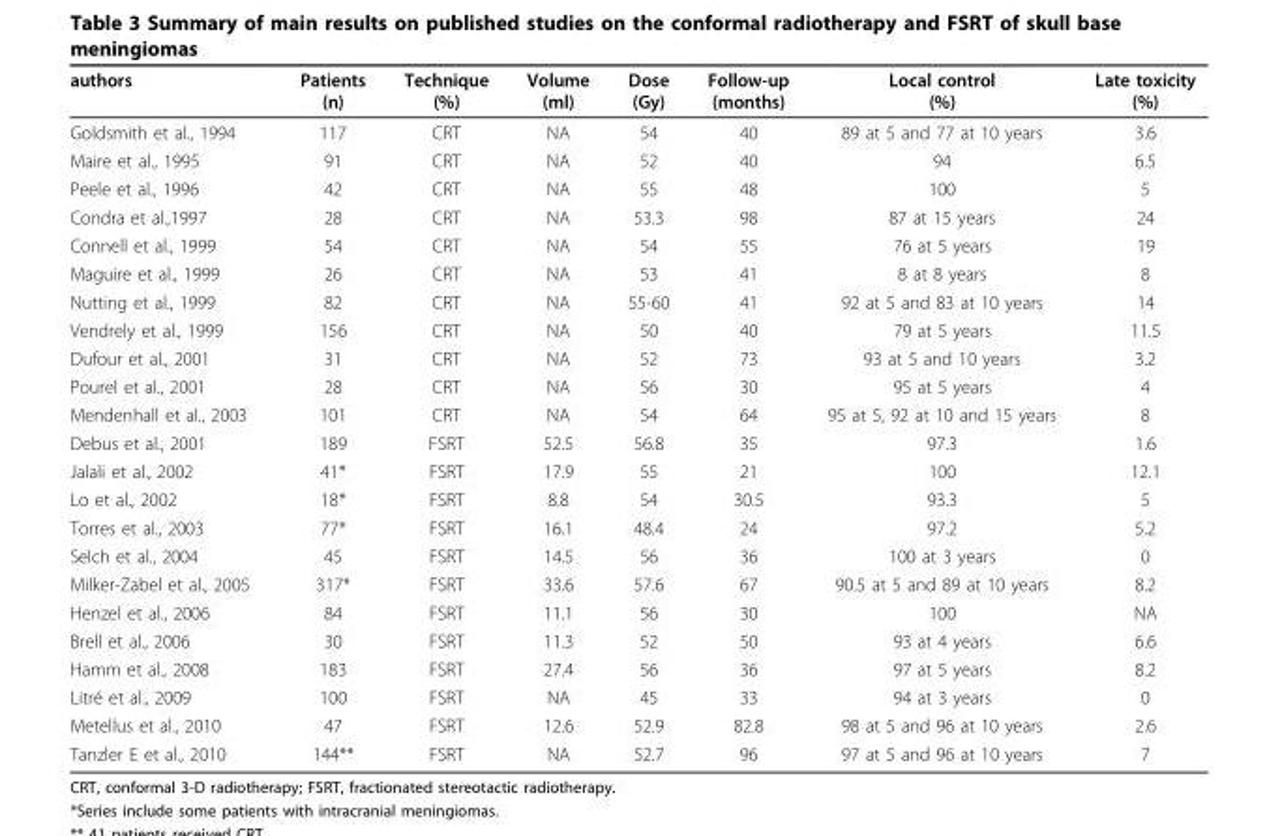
<table><thead><tr><td>authors</td><td>Patients (n)</td><td>Technique (%)</td><td>Volume (ml)</td><td>Dose (Gy)</td><td>Follow-up (months)</td><td>Local control (%)</td><td>Late toxicity (%)</td></tr></thead><tbody><tr><td>Goldsmith et al., 1994</td><td>117</td><td>CRT</td><td>NA</td><td>54</td><td>40</td><td>89 at 5 and 77 at 10 years</td><td>3.6</td></tr><tr><td>Maire et al., 1995</td><td>91</td><td>CRT</td><td>NA</td><td>52</td><td>40</td><td>94</td><td>6.5</td></tr><tr><td>Peele et al., 1996</td><td>42</td><td>CRT</td><td>NA</td><td>55</td><td>48</td><td>100</td><td>5</td></tr><tr><td>Condra et al.,1997</td><td>28</td><td>CRT</td><td>NA</td><td>53.3</td><td>98</td><td>87 at 15 years</td><td>24</td></tr><tr><td>Connell et al., 1999</td><td>54</td><td>CRT</td><td>NA</td><td>54</td><td>55</td><td>76 at 5 years</td><td>19</td></tr><tr><td>Maguire et al., 1999</td><td>26</td><td>CRT</td><td>NA</td><td>53</td><td>41</td><td>8 at 8 years</td><td>8</td></tr><tr><td>Nutting et al., 1999</td><td>82</td><td>CRT</td><td>NA</td><td>55-60</td><td>41</td><td>92 at 5 and 83 at 10 years</td><td>14</td></tr><tr><td>Vendrely et al., 1999</td><td>156</td><td>CRT</td><td>NA</td><td>50</td><td>40</td><td>79 at 5 years</td><td>11.5</td></tr><tr><td>Dufour et al., 2001</td><td>31</td><td>CRT</td><td>NA</td><td>52</td><td>73</td><td>93 at 5 and 10 years</td><td>3.2</td></tr><tr><td>Pourel et al., 2001</td><td>28</td><td>CRT</td><td>NA</td><td>56</td><td>30</td><td>95 at 5 years</td><td>4</td></tr><tr><td>Mendenhall et al., 2003</td><td>101</td><td>CRT</td><td>NA</td><td>54</td><td>64</td><td>95 at 5, 92 at 10 and 15 years</td><td>8</td></tr><tr><td>Debus et al., 2001</td><td>189</td><td>FSRT</td><td>52.5</td><td>56.8</td><td>35</td><td>97.3</td><td>1.6</td></tr><tr><td>Jalali et al., 2002</td><td>41*</td><td>FSRT</td><td>17.9</td><td>55</td><td>21</td><td>100</td><td>12.1</td></tr><tr><td>Lo et al., 2002</td><td>18*</td><td>FSRT</td><td>8.8</td><td>54</td><td>30.5</td><td>93.3</td><td>5</td></tr><tr><td>Torres et al., 2003</td><td>77*</td><td>FSRT</td><td>16.1</td><td>48.4</td><td>24</td><td>97.2</td><td>5.2</td></tr><tr><td>Selch et al., 2004</td><td>45</td><td>FSRT</td><td>14.5</td><td>56</td><td>36</td><td>100 at 3 years</td><td>0</td></tr><tr><td>Milker-Zabel et al., 2005</td><td>317*</td><td>FSRT</td><td>33.6</td><td>57.6</td><td>67</td><td>90.5 at 5 and 89 at 10 years</td><td>8.2</td></tr><tr><td>Henzel et al., 2006</td><td>84</td><td>FSRT</td><td>11.1</td><td>56</td><td>30</td><td>100</td><td>NA</td></tr><tr><td>Brell et al., 2006</td><td>30</td><td>FSRT</td><td>11.3</td><td>52</td><td>50</td><td>93 at 4 years</td><td>6.6</td></tr><tr><td>Hamm et al., 2008</td><td>183</td><td>FSRT</td><td>27.4</td><td>56</td><td>36</td><td>97 at 5 years</td><td>8.2</td></tr><tr><td>Litré et al., 2009</td><td>100</td><td>FSRT</td><td>NA</td><td>45</td><td>33</td><td>94 at 3 years</td><td>0</td></tr><tr><td>Metellus et al., 2010</td><td>47</td><td>FSRT</td><td>12.6</td><td>52.9</td><td>82.8</td><td>98 at 5 and 96 at 10 years</td><td>2.6</td></tr><tr><td>Tanzler E et al., 2010</td><td>144**</td><td>FSRT</td><td>NA</td><td>52.7</td><td>96</td><td>97 at 5 and 96 at 10 years</td><td>7</td></tr></tbody></table>